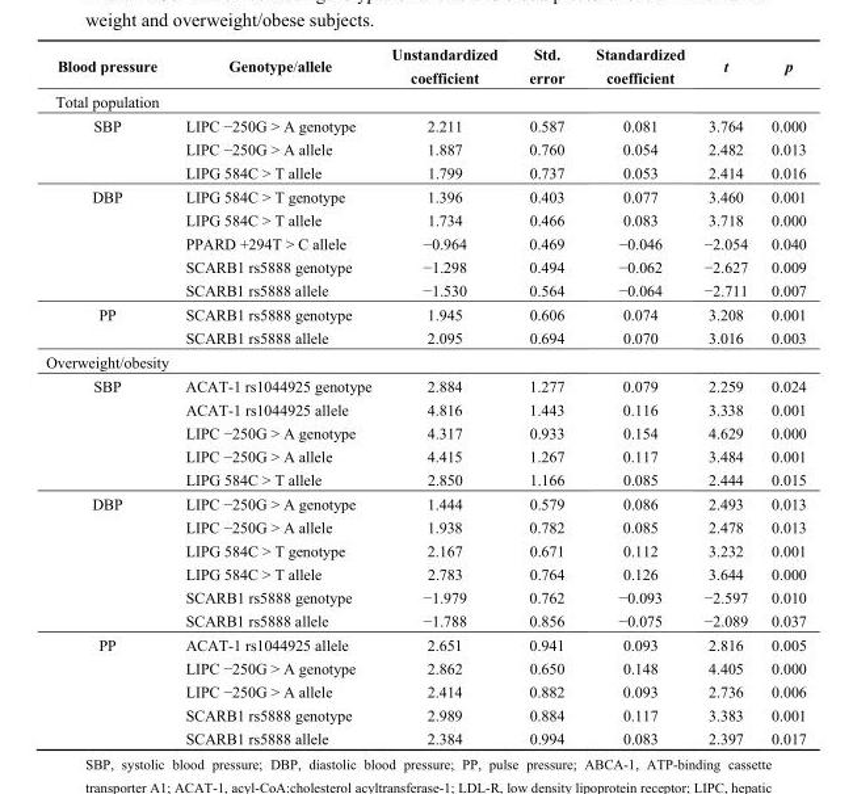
<table><thead><tr><td>Blood pressure</td><td>Genotype/allele</td><td>Unstandardized coefficient</td><td>Std. error</td><td>Standardized coefficient</td><td>t</td><td>p</td></tr></thead><tbody><tr><td colspan="7">Total population</td></tr><tr><td rowspan="3">SBP</td><td>LIPC −250G &gt; A genotype</td><td>2.211</td><td>0.587</td><td>0.081</td><td>3.764</td><td>0.000</td></tr><tr><td>LIPC −250G &gt; A allele</td><td>1.887</td><td>0.760</td><td>0.054</td><td>2.482</td><td>0.013</td></tr><tr><td>LIPG 584C &gt; T allele</td><td>1.799</td><td>0.737</td><td>0.053</td><td>2.414</td><td>0.016</td></tr><tr><td rowspan="5">DBP</td><td>LIPG 584C &gt; T genotype</td><td>1.396</td><td>0.403</td><td>0.077</td><td>3.460</td><td>0.001</td></tr><tr><td>LIPG 584C &gt; T allele</td><td>1.734</td><td>0.466</td><td>0.083</td><td>3.718</td><td>0.000</td></tr><tr><td>PPARD +294T &gt; C allele</td><td>−0.964</td><td>0.469</td><td>−0.046</td><td>−2.054</td><td>0.040</td></tr><tr><td>SCARB1 rs5888 genotype</td><td>−1.298</td><td>0.494</td><td>−0.062</td><td>−2.627</td><td>0.009</td></tr><tr><td>SCARB1 rs5888 allele</td><td>−1.530</td><td>0.564</td><td>−0.064</td><td>−2.711</td><td>0.007</td></tr><tr><td rowspan="2">PP</td><td>SCARB1 rs5888 genotype</td><td>1.945</td><td>0.606</td><td>0.074</td><td>3.208</td><td>0.001</td></tr><tr><td>SCARB1 rs5888 allele</td><td>2.095</td><td>0.694</td><td>0.070</td><td>3.016</td><td>0.003</td></tr><tr><td colspan="7">Overweight/obesity</td></tr><tr><td rowspan="5">SBP</td><td>ACAT-1 rs1044925 genotype</td><td>2.884</td><td>1.277</td><td>0.079</td><td>2.259</td><td>0.024</td></tr><tr><td>ACAT-1 rs1044925 allele</td><td>4.816</td><td>1.443</td><td>0.116</td><td>3.338</td><td>0.001</td></tr><tr><td>LIPC −250G &gt; A genotype</td><td>4.317</td><td>0.933</td><td>0.154</td><td>4.629</td><td>0.000</td></tr><tr><td>LIPC −250G &gt; A allele</td><td>4.415</td><td>1.267</td><td>0.117</td><td>3.484</td><td>0.001</td></tr><tr><td>LIPG 584C &gt; T allele</td><td>2.850</td><td>1.166</td><td>0.085</td><td>2.444</td><td>0.015</td></tr><tr><td rowspan="6">DBP</td><td>LIPC −250G &gt; A genotype</td><td>1.444</td><td>0.579</td><td>0.086</td><td>2.493</td><td>0.013</td></tr><tr><td>LIPC −250G &gt; A allele</td><td>1.938</td><td>0.782</td><td>0.085</td><td>2.478</td><td>0.013</td></tr><tr><td>LIPG 584C &gt; T genotype</td><td>2.167</td><td>0.671</td><td>0.112</td><td>3.232</td><td>0.001</td></tr><tr><td>LIPG 584C &gt; T allele</td><td>2.783</td><td>0.764</td><td>0.126</td><td>3.644</td><td>0.000</td></tr><tr><td>SCARB1 rs5888 genotype</td><td>−1.979</td><td>0.762</td><td>−0.093</td><td>−2.597</td><td>0.010</td></tr><tr><td>SCARB1 rs5888 allele</td><td>−1.788</td><td>0.856</td><td>−0.075</td><td>−2.089</td><td>0.037</td></tr><tr><td rowspan="5">PP</td><td>ACAT-1 rs1044925 allele</td><td>2.651</td><td>0.941</td><td>0.093</td><td>2.816</td><td>0.005</td></tr><tr><td>LIPC −250G &gt; A genotype</td><td>2.862</td><td>0.650</td><td>0.148</td><td>4.405</td><td>0.000</td></tr><tr><td>LIPC −250G &gt; A allele</td><td>2.414</td><td>0.882</td><td>0.093</td><td>2.736</td><td>0.006</td></tr><tr><td>SCARB1 rs5888 genotype</td><td>2.989</td><td>0.884</td><td>0.117</td><td>3.383</td><td>0.001</td></tr><tr><td>SCARB1 rs5888 allele</td><td>2.384</td><td>0.994</td><td>0.083</td><td>2.397</td><td>0.017</td></tr></tbody></table>